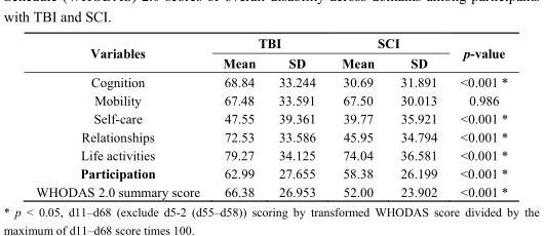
<table><thead><tr><td rowspan="2">Variables</td><td colspan="2">TBI</td><td colspan="2">SCI</td><td rowspan="2">p-value</td></tr><tr><td>Mean</td><td>SD</td><td>Mean</td><td>SD</td></tr></thead><tbody><tr><td>Cognition</td><td>68.84</td><td>33.244</td><td>30.69</td><td>31.891</td><td>&lt;0.001 *</td></tr><tr><td>Mobility</td><td>67.48</td><td>33.591</td><td>67.50</td><td>30.013</td><td>0.986</td></tr><tr><td>Self-care</td><td>47.55</td><td>39.361</td><td>39.77</td><td>35.921</td><td>&lt;0.001 *</td></tr><tr><td>Relationships</td><td>72.53</td><td>33.586</td><td>45.95</td><td>34.794</td><td>&lt;0.001 *</td></tr><tr><td>Life activities</td><td>79.27</td><td>34.125</td><td>74.04</td><td>36.581</td><td>&lt;0.001 *</td></tr><tr><td>Participation</td><td>62.99</td><td>27.655</td><td>58.38</td><td>26.199</td><td>&lt;0.001 *</td></tr><tr><td>WHODAS 2.0 summary score</td><td>66.38</td><td>26.953</td><td>52.00</td><td>23.902</td><td>&lt;0.001 *</td></tr></tbody></table>